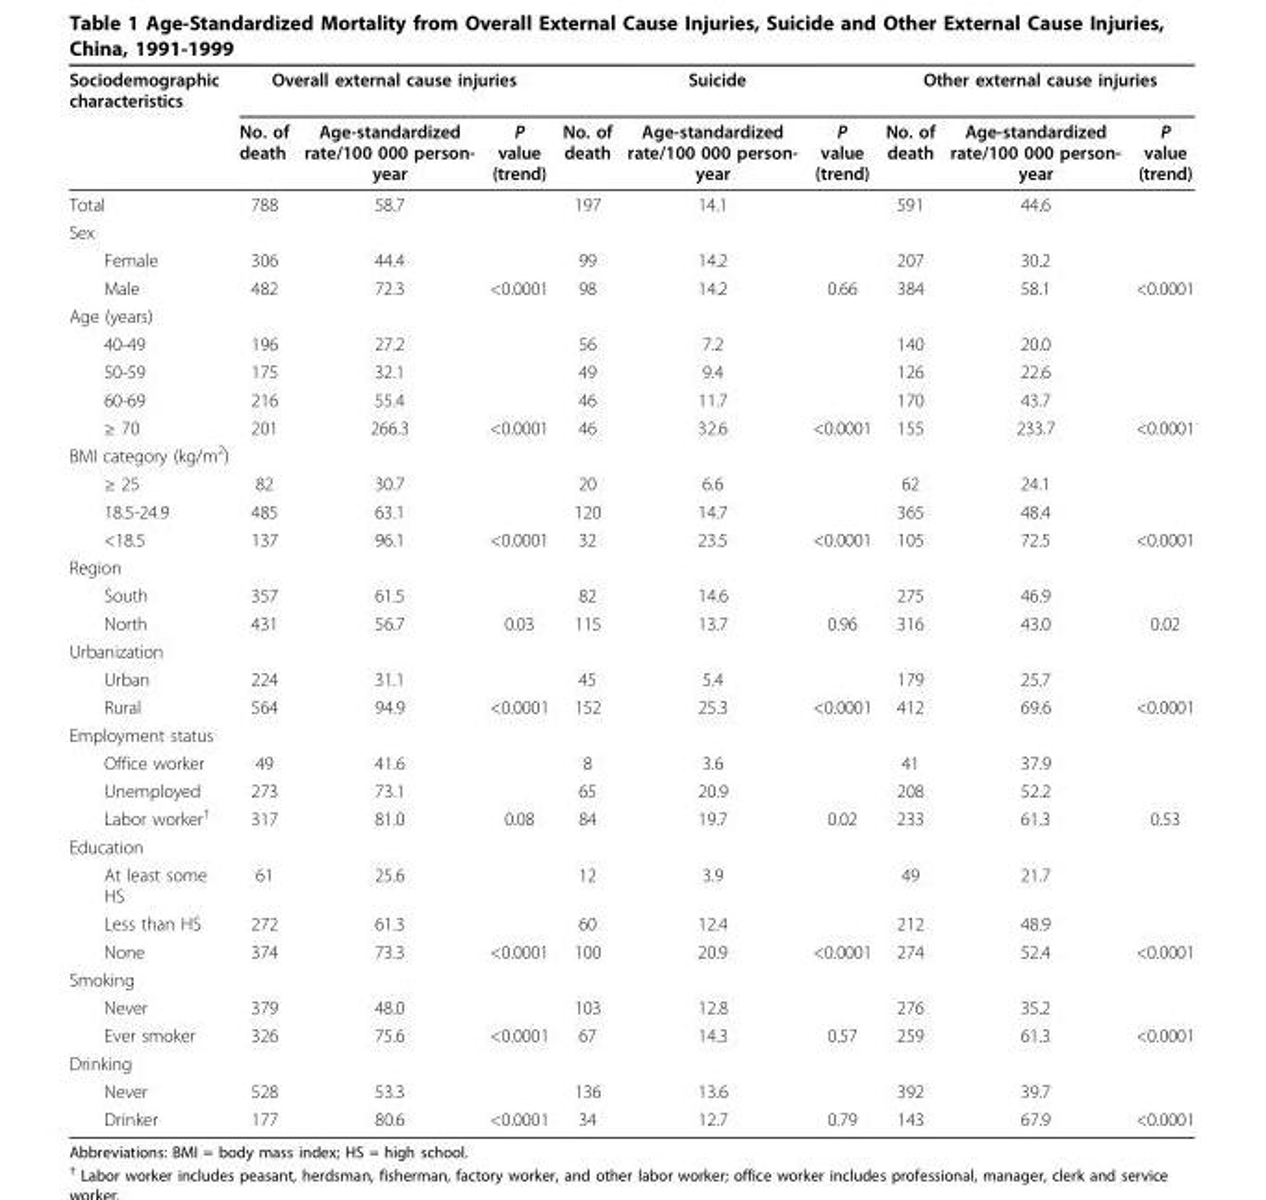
<table><thead><tr><td rowspan="2">Sociodemographic characteristics</td><td colspan="3">Overall external cause injuries</td><td colspan="3">Suicide</td><td colspan="3">Other external cause injuries</td></tr><tr><td>No. of death</td><td>Age-standardized rate/100 000 person- year</td><td>P value (trend)</td><td>No. of death</td><td>Age-standardized rate/100 000 person- year</td><td>P value (trend)</td><td>No. of death</td><td>Age-standardized rate/100 000 person- year</td><td>P value (trend)</td></tr></thead><tbody><tr><td>Total</td><td>788</td><td>58.7</td><td></td><td>197</td><td>14.1</td><td></td><td>591</td><td>44.6</td><td></td></tr><tr><td colspan="10">Sex</td></tr><tr><td>Female</td><td>306</td><td>44.4</td><td></td><td>99</td><td>14.2</td><td></td><td>207</td><td>30.2</td><td></td></tr><tr><td>Male</td><td>482</td><td>72.3</td><td>&lt;0.0001</td><td>98</td><td>14.2</td><td>0.66</td><td>384</td><td>58.1</td><td>&lt;0.0001</td></tr><tr><td colspan="10">Age (years)</td></tr><tr><td>40-49</td><td>196</td><td>27.2</td><td></td><td>56</td><td>7.2</td><td></td><td>140</td><td>20.0</td><td></td></tr><tr><td>50-59</td><td>175</td><td>32.1</td><td></td><td>49</td><td>9.4</td><td></td><td>126</td><td>22.6</td><td></td></tr><tr><td>60-69</td><td>216</td><td>55.4</td><td></td><td>46</td><td>11.7</td><td></td><td>170</td><td>43.7</td><td></td></tr><tr><td>≥ 70</td><td>201</td><td>266.3</td><td>&lt;0.0001</td><td>46</td><td>32.6</td><td>&lt;0.0001</td><td>155</td><td>233.7</td><td>&lt;0.0001</td></tr><tr><td colspan="10">BMI category (kg/m<sup>2</sup>)</td></tr><tr><td>≥ 25</td><td>82</td><td>30.7</td><td></td><td>20</td><td>6.6</td><td></td><td>62</td><td>24.1</td><td></td></tr><tr><td>18.5-24.9</td><td>485</td><td>63.1</td><td></td><td>120</td><td>14.7</td><td></td><td>365</td><td>48.4</td><td></td></tr><tr><td>&lt;18.5</td><td>137</td><td>96.1</td><td>&lt;0.0001</td><td>32</td><td>23.5</td><td>&lt;0.0001</td><td>105</td><td>72.5</td><td>&lt;0.0001</td></tr><tr><td colspan="10">Region</td></tr><tr><td>South</td><td>357</td><td>61.5</td><td></td><td>82</td><td>14.6</td><td></td><td>275</td><td>46.9</td><td></td></tr><tr><td>North</td><td>431</td><td>56.7</td><td>0.03</td><td>115</td><td>13.7</td><td>0.96</td><td>316</td><td>43.0</td><td>0.02</td></tr><tr><td colspan="10">Urbanization</td></tr><tr><td>Urban</td><td>224</td><td>31.1</td><td></td><td>45</td><td>5.4</td><td></td><td>179</td><td>25.7</td><td></td></tr><tr><td>Rural</td><td>564</td><td>94.9</td><td>&lt;0.0001</td><td>152</td><td>25.3</td><td>&lt;0.0001</td><td>412</td><td>69.6</td><td>&lt;0.0001</td></tr><tr><td colspan="10">Employment status</td></tr><tr><td>Office worker</td><td>49</td><td>41.6</td><td></td><td>8</td><td>3.6</td><td></td><td>41</td><td>37.9</td><td></td></tr><tr><td>Unemployed</td><td>273</td><td>73.1</td><td></td><td>65</td><td>20.9</td><td></td><td>208</td><td>52.2</td><td></td></tr><tr><td>Labor worker<sup>†</sup></td><td>317</td><td>81.0</td><td>0.08</td><td>84</td><td>19.7</td><td>0.02</td><td>233</td><td>61.3</td><td>0.53</td></tr><tr><td colspan="10">Education</td></tr><tr><td>At least some HS</td><td>61</td><td>25.6</td><td></td><td>12</td><td>3.9</td><td></td><td>49</td><td>21.7</td><td></td></tr><tr><td>Less than HS</td><td>272</td><td>61.3</td><td></td><td>60</td><td>12.4</td><td></td><td>212</td><td>48.9</td><td></td></tr><tr><td>None</td><td>374</td><td>73.3</td><td>&lt;0.0001</td><td>100</td><td>20.9</td><td>&lt;0.0001</td><td>274</td><td>52.4</td><td>&lt;0.0001</td></tr><tr><td colspan="10">Smoking</td></tr><tr><td>Never</td><td>379</td><td>48.0</td><td></td><td>103</td><td>12.8</td><td></td><td>276</td><td>35.2</td><td></td></tr><tr><td>Ever smoker</td><td>326</td><td>75.6</td><td>&lt;0.0001</td><td>67</td><td>14.3</td><td>0.57</td><td>259</td><td>61.3</td><td>&lt;0.0001</td></tr><tr><td colspan="10">Drinking</td></tr><tr><td>Never</td><td>528</td><td>53.3</td><td></td><td>136</td><td>13.6</td><td></td><td>392</td><td>39.7</td><td></td></tr><tr><td>Drinker</td><td>177</td><td>80.6</td><td>&lt;0.0001</td><td>34</td><td>12.7</td><td>0.79</td><td>143</td><td>67.9</td><td>&lt;0.0001</td></tr></tbody></table>